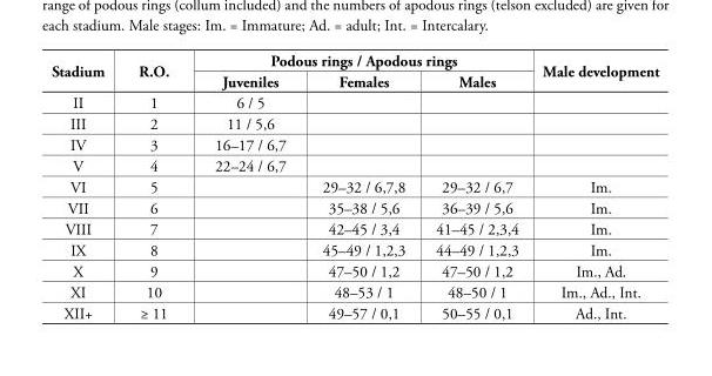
<table><tbody><tr><td rowspan="2">Stadium</td><td rowspan="2">R.O.</td><td colspan="3">Podous rings / Apodous rings</td><td rowspan="2">Male development</td></tr><tr><td>Juveniles</td><td>Females</td><td>Males</td></tr><tr><td>II</td><td>1</td><td>6 / 5</td><td></td><td></td><td></td></tr><tr><td>III</td><td>2</td><td>11 / 5,6</td><td></td><td></td><td></td></tr><tr><td>IV</td><td>3</td><td>16–17 / 6,7</td><td></td><td></td><td></td></tr><tr><td>V</td><td>4</td><td>22–24 / 6,7</td><td></td><td></td><td></td></tr><tr><td>VI</td><td>5</td><td></td><td>29–32 / 6,7,8</td><td>29–32 / 6,7</td><td>Im.</td></tr><tr><td>VII</td><td>6</td><td></td><td>35–38 / 5,6</td><td>36–39 / 5,6</td><td>Im.</td></tr><tr><td>VIII</td><td>7</td><td></td><td>42–45 / 3,4</td><td>41–45 / 2,3,4</td><td>Im.</td></tr><tr><td>IX</td><td>8</td><td></td><td>45–49 / 1,2,3</td><td>44–49 / 1,2,3</td><td>Im.</td></tr><tr><td>X</td><td>9</td><td></td><td>47–50 / 1,2</td><td>47–50 / 1,2</td><td>Im., Ad.</td></tr><tr><td>XI</td><td>10</td><td></td><td>48–53 / 1</td><td>48–50 / 1</td><td>Im., Ad., Int.</td></tr><tr><td>XII+</td><td>≥ 11</td><td></td><td>49–57 / 0,1</td><td>50–55 / 0,1</td><td>Ad., Int.</td></tr></tbody></table>